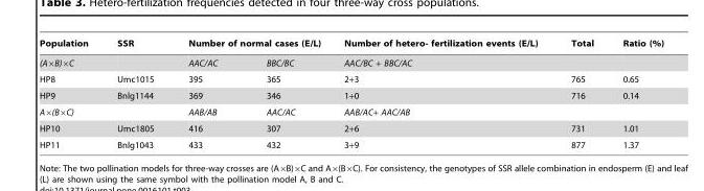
<table><thead><tr><td rowspan="2">Population (A×B)×C</td><td rowspan="2">SSR</td><td colspan="2">Number of normal cases (E/L)</td><td rowspan="2">Number of hetero- fertilization events (E/L) AAC/BC + BBC/AC</td><td rowspan="2">Total</td><td rowspan="2">Ratio (%)</td></tr><tr><td>AAC/AC</td><td>BBC/BC</td></tr></thead><tbody><tr><td>HP8</td><td>Umc1015</td><td>395</td><td>365</td><td>2+3</td><td>765</td><td>0.65</td></tr><tr><td>HP9</td><td>Bnlg1144</td><td>369</td><td>346</td><td>1+0</td><td>716</td><td>0.14</td></tr><tr><td>A×(B×C)</td><td></td><td>AAB/AB</td><td>AAC/AC</td><td>AAB/AC+ AAC/AB</td><td></td><td></td></tr><tr><td>HP10</td><td>Umc1805</td><td>416</td><td>307</td><td>2+6</td><td>731</td><td>1.01</td></tr><tr><td>HP11</td><td>Bnlg1043</td><td>433</td><td>432</td><td>3+9</td><td>877</td><td>1.37</td></tr></tbody></table>